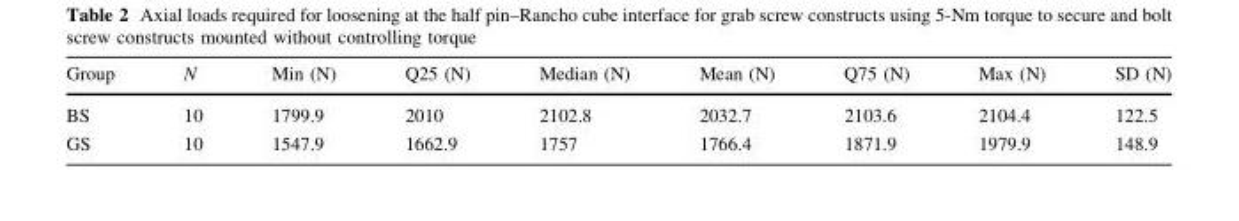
<table><thead><tr><td>Group</td><td>N</td><td>Min (N)</td><td>Q25 (N)</td><td>Median (N)</td><td>Mean (N)</td><td>Q75 (N)</td><td>Max (N)</td><td>SD (N)</td></tr></thead><tbody><tr><td>BS</td><td>10</td><td>1799.9</td><td>2010</td><td>2102.8</td><td>2032.7</td><td>2103.6</td><td>2104.4</td><td>122.5</td></tr><tr><td>GS</td><td>10</td><td>1547.9</td><td>1662.9</td><td>1757</td><td>1766.4</td><td>1871.9</td><td>1979.9</td><td>148.9</td></tr></tbody></table>